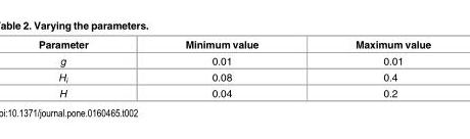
<table><thead><tr><td>Parameter</td><td>Minimum value</td><td>Maximum value</td></tr></thead><tbody><tr><td>g</td><td>0.01</td><td>0.01</td></tr><tr><td>H<sub>i</sub></td><td>0.08</td><td>0.4</td></tr><tr><td>H</td><td>0.04</td><td>0.2</td></tr></tbody></table>